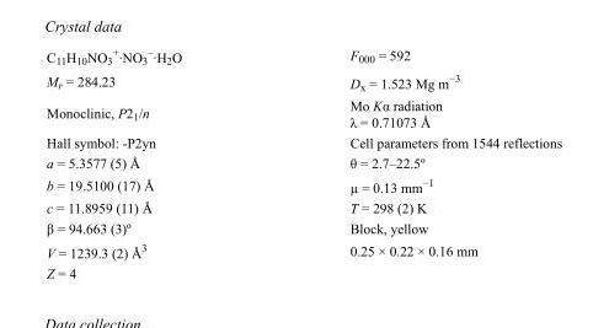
<table><tbody><tr><td>C<sub>11</sub>H<sub>10</sub>NO<sub>3</sub> <sup>+</sup>·NO<sub>3</sub> <sup>–</sup>·H<sub>2</sub>O</td><td>F<sub>000</sub> = 592</td></tr><tr><td>M<sub>r</sub> = 284.23</td><td>D<sub>x</sub> = 1.523 Mg m<sup>−3</sup></td></tr><tr><td>Monoclinic, P2<sub>1</sub>/n</td><td>Mo Kα radiation λ = 0.71073 Å</td></tr><tr><td>Hall symbol: -P2yn</td><td>Cell parameters from 1544 reflections</td></tr><tr><td>a = 5.3577 (5) Å</td><td>θ = 2.7–22.5º</td></tr><tr><td>b = 19.5100 (17) Å</td><td>µ = 0.13 mm<sup>−1</sup></td></tr><tr><td>c = 11.8959 (11) Å</td><td>T = 298 (2) K</td></tr><tr><td>β = 94.663 (3)º</td><td>Block, yellow</td></tr><tr><td>V = 1239.3 (2) Å<sup>3</sup></td><td>0.25 × 0.22 × 0.16 mm</td></tr><tr><td>Z = 4</td><td></td></tr></tbody></table>